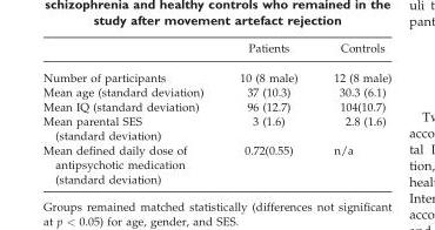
<table><thead><tr><td></td><td>Patients</td><td>Controls</td></tr></thead><tbody><tr><td>Number of participants</td><td>10 (8 male)</td><td>12 (8 male)</td></tr><tr><td>Mean age (standard deviation)</td><td>37 (10.3)</td><td>30.3 (6.1)</td></tr><tr><td>Mean IQ (standard deviation)</td><td>96 (12.7)</td><td>104(10.7)</td></tr><tr><td>Mean parental SES (standard deviation)</td><td>3 (1.6)</td><td>2.8 (1.6)</td></tr><tr><td>Mean defined daily dose of antipsychotic medication (standard deviation)</td><td>0.72(0.55)</td><td>n/a</td></tr></tbody></table>